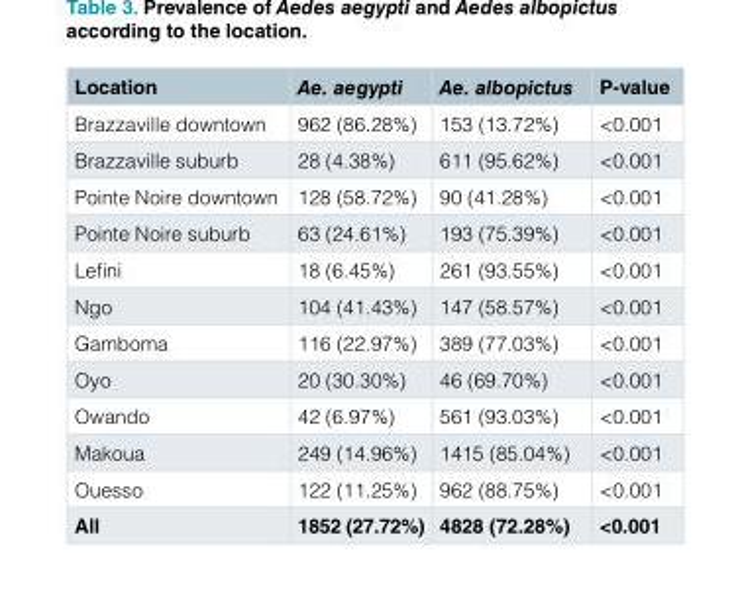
<table><thead><tr><td>Location</td><td>Ae. aegypti</td><td>Ae. albopictus</td><td>P-value</td></tr></thead><tbody><tr><td>Brazzaville downtown</td><td>962 (86.28%)</td><td>153 (13.72%)</td><td>&lt;0.001</td></tr><tr><td>Brazzaville suburb</td><td>28 (4.38%)</td><td>611 (95.62%)</td><td>&lt;0.001</td></tr><tr><td>Pointe Noire downtown</td><td>128 (58.72%)</td><td>90 (41.28%)</td><td>&lt;0.001</td></tr><tr><td>Pointe Noire suburb</td><td>63 (24.61%)</td><td>193 (75.39%)</td><td>&lt;0.001</td></tr><tr><td>Lefini</td><td>18 (6.45%)</td><td>261 (93.55%)</td><td>&lt;0.001</td></tr><tr><td>Ngo</td><td>104 (41.43%)</td><td>147 (58.57%)</td><td>&lt;0.001</td></tr><tr><td>Gamboma</td><td>116 (22.97%)</td><td>389 (77.03%)</td><td>&lt;0.001</td></tr><tr><td>Oyo</td><td>20 (30.30%)</td><td>46 (69.70%)</td><td>&lt;0.001</td></tr><tr><td>Owando</td><td>42 (6.97%)</td><td>561 (93.03%)</td><td>&lt;0.001</td></tr><tr><td>Makoua</td><td>249 (14.96%)</td><td>1415 (85.04%)</td><td>&lt;0.001</td></tr><tr><td>Ouesso</td><td>122 (11.25%)</td><td>962 (88.75%)</td><td>&lt;0.001</td></tr><tr><td>All</td><td>1852 (27.72%)</td><td>4828 (72.28%)</td><td>&lt;0.001</td></tr></tbody></table>